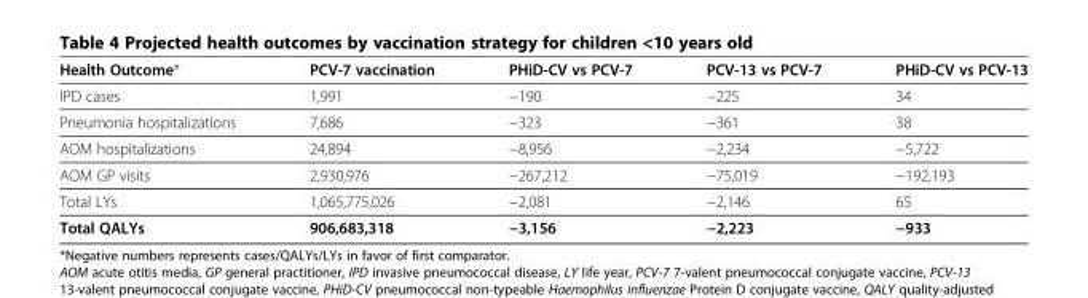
<table><thead><tr><td>Health Outcome*</td><td>PCV-7 vaccination</td><td>PHiD-CV vs PCV-7</td><td>PCV-13 vs PCV-7</td><td>PHiD-CV vs PCV-13</td></tr></thead><tbody><tr><td>IPD cases</td><td>1,991</td><td>−190</td><td>−225</td><td>34</td></tr><tr><td>Pneumonia hospitalizations</td><td>7,686</td><td>−323</td><td>−361</td><td>38</td></tr><tr><td>AOM hospitalizations</td><td>24,894</td><td>−8,956</td><td>−2,234</td><td>−5,722</td></tr><tr><td>AOM GP visits</td><td>2,930,976</td><td>−267,212</td><td>−75,019</td><td>−192,193</td></tr><tr><td>Total LYs</td><td>1,065,775,026</td><td>−2,081</td><td>−2,146</td><td>65</td></tr><tr><td>Total QALYs</td><td>906,683,318</td><td>−3,156</td><td>−2,223</td><td>−933</td></tr></tbody></table>